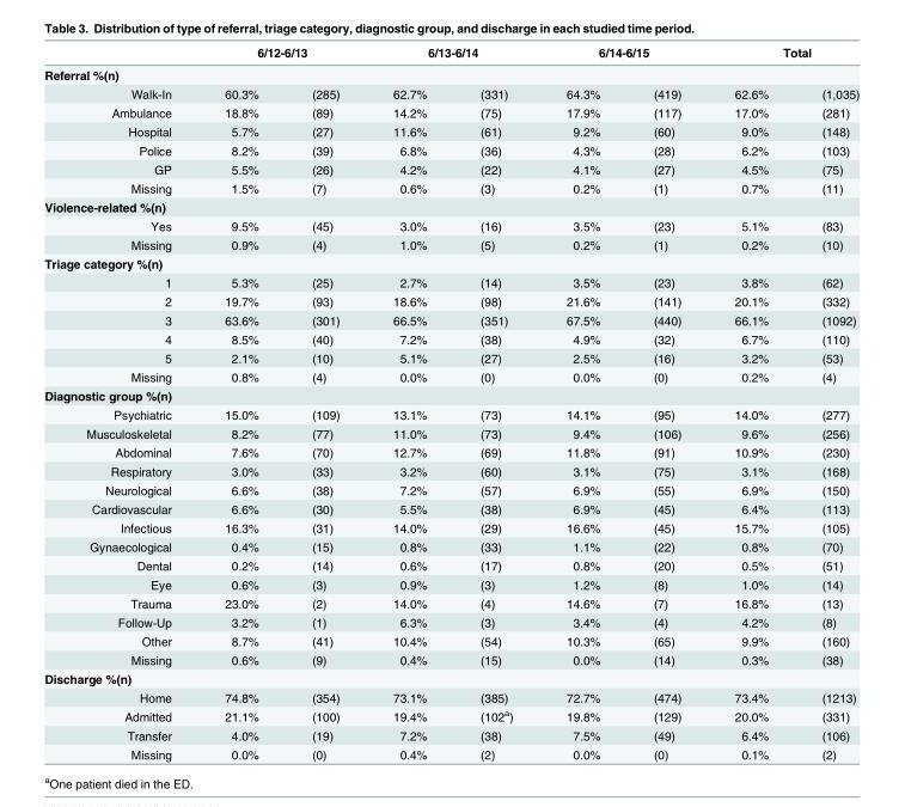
<table><thead><tr><td rowspan="2">Referral %(n)</td><td colspan="2">6/12-6/13</td><td colspan="2">6/13-6/14</td><td colspan="2">6/14-6/15</td><td colspan="2">Total</td></tr><tr><td></td><td></td><td></td><td></td><td></td><td></td><td></td><td></td></tr></thead><tbody><tr><td>Walk-In</td><td>60.3%</td><td>(285)</td><td>62.7%</td><td>(331)</td><td>64.3%</td><td>(419)</td><td>62.6%</td><td>(1,035)</td></tr><tr><td>Ambulance</td><td>18.8%</td><td>(89)</td><td>14.2%</td><td>(75)</td><td>17.9%</td><td>(117)</td><td>17.0%</td><td>(281)</td></tr><tr><td>Hospital</td><td>5.7%</td><td>(27)</td><td>11.6%</td><td>(61)</td><td>9.2%</td><td>(60)</td><td>9.0%</td><td>(148)</td></tr><tr><td>Police</td><td>8.2%</td><td>(39)</td><td>6.8%</td><td>(36)</td><td>4.3%</td><td>(28)</td><td>6.2%</td><td>(103)</td></tr><tr><td>GP</td><td>5.5%</td><td>(26)</td><td>4.2%</td><td>(22)</td><td>4.1%</td><td>(27)</td><td>4.5%</td><td>(75)</td></tr><tr><td>Missing</td><td>1.5%</td><td>(7)</td><td>0.6%</td><td>(3)</td><td>0.2%</td><td>(1)</td><td>0.7%</td><td>(11)</td></tr><tr><td colspan="9">Violence-related %(n)</td></tr><tr><td>Yes</td><td>9.5%</td><td>(45)</td><td>3.0%</td><td>(16)</td><td>3.5%</td><td>(23)</td><td>5.1%</td><td>(83)</td></tr><tr><td>Missing</td><td>0.9%</td><td>(4)</td><td>1.0%</td><td>(5)</td><td>0.2%</td><td>(1)</td><td>0.2%</td><td>(10)</td></tr><tr><td colspan="9">Triage category %(n)</td></tr><tr><td>1</td><td>5.3%</td><td>(25)</td><td>2.7%</td><td>(14)</td><td>3.5%</td><td>(23)</td><td>3.8%</td><td>(62)</td></tr><tr><td>2</td><td>19.7%</td><td>(93)</td><td>18.6%</td><td>(98)</td><td>21.6%</td><td>(141)</td><td>20.1%</td><td>(332)</td></tr><tr><td>3</td><td>63.6%</td><td>(301)</td><td>66.5%</td><td>(351)</td><td>67.5%</td><td>(440)</td><td>66.1%</td><td>(1092)</td></tr><tr><td>4</td><td>8.5%</td><td>(40)</td><td>7.2%</td><td>(38)</td><td>4.9%</td><td>(32)</td><td>6.7%</td><td>(110)</td></tr><tr><td>5</td><td>2.1%</td><td>(10)</td><td>5.1%</td><td>(27)</td><td>2.5%</td><td>(16)</td><td>3.2%</td><td>(53)</td></tr><tr><td>Missing</td><td>0.8%</td><td>(4)</td><td>0.0%</td><td>(0)</td><td>0.0%</td><td>(0)</td><td>0.2%</td><td>(4)</td></tr><tr><td colspan="9">Diagnostic group %(n)</td></tr><tr><td>Psychiatric</td><td>15.0%</td><td>(109)</td><td>13.1%</td><td>(73)</td><td>14.1%</td><td>(95)</td><td>14.0%</td><td>(277)</td></tr><tr><td>Musculoskeletal</td><td>8.2%</td><td>(77)</td><td>11.0%</td><td>(73)</td><td>9.4%</td><td>(106)</td><td>9.6%</td><td>(256)</td></tr><tr><td>Abdominal</td><td>7.6%</td><td>(70)</td><td>12.7%</td><td>(69)</td><td>11.8%</td><td>(91)</td><td>10.9%</td><td>(230)</td></tr><tr><td>Respiratory</td><td>3.0%</td><td>(33)</td><td>3.2%</td><td>(60)</td><td>3.1%</td><td>(75)</td><td>3.1%</td><td>(168)</td></tr><tr><td>Neurological</td><td>6.6%</td><td>(38)</td><td>7.2%</td><td>(57)</td><td>6.9%</td><td>(55)</td><td>6.9%</td><td>(150)</td></tr><tr><td>Cardiovascular</td><td>6.6%</td><td>(30)</td><td>5.5%</td><td>(38)</td><td>6.9%</td><td>(45)</td><td>6.4%</td><td>(113)</td></tr><tr><td>Infectious</td><td>16.3%</td><td>(31)</td><td>14.0%</td><td>(29)</td><td>16.6%</td><td>(45)</td><td>15.7%</td><td>(105)</td></tr><tr><td>Gynaecological</td><td>0.4%</td><td>(15)</td><td>0.8%</td><td>(33)</td><td>1.1%</td><td>(22)</td><td>0.8%</td><td>(70)</td></tr><tr><td>Dental</td><td>0.2%</td><td>(14)</td><td>0.6%</td><td>(17)</td><td>0.8%</td><td>(20)</td><td>0.5%</td><td>(51)</td></tr><tr><td>Eye</td><td>0.6%</td><td>(3)</td><td>0.9%</td><td>(3)</td><td>1.2%</td><td>(8)</td><td>1.0%</td><td>(14)</td></tr><tr><td>Trauma</td><td>23.0%</td><td>(2)</td><td>14.0%</td><td>(4)</td><td>14.6%</td><td>(7)</td><td>16.8%</td><td>(13)</td></tr><tr><td>Follow-Up</td><td>3.2%</td><td>(1)</td><td>6.3%</td><td>(3)</td><td>3.4%</td><td>(4)</td><td>4.2%</td><td>(8)</td></tr><tr><td>Other</td><td>8.7%</td><td>(41)</td><td>10.4%</td><td>(54)</td><td>10.3%</td><td>(65)</td><td>9.9%</td><td>(160)</td></tr><tr><td>Missing</td><td>0.6%</td><td>(9)</td><td>0.4%</td><td>(15)</td><td>0.0%</td><td>(14)</td><td>0.3%</td><td>(38)</td></tr><tr><td colspan="9">Discharge %(n)</td></tr><tr><td>Home</td><td>74.8%</td><td>(354)</td><td>73.1%</td><td>(385)</td><td>72.7%</td><td>(474)</td><td>73.4%</td><td>(1213)</td></tr><tr><td>Admitted</td><td>21.1%</td><td>(100)</td><td>19.4%</td><td>(102<sup>a</sup>)</td><td>19.8%</td><td>(129)</td><td>20.0%</td><td>(331)</td></tr><tr><td>Transfer</td><td>4.0%</td><td>(19)</td><td>7.2%</td><td>(38)</td><td>7.5%</td><td>(49)</td><td>6.4%</td><td>(106)</td></tr><tr><td>Missing</td><td>0.0%</td><td>(0)</td><td>0.4%</td><td>(2)</td><td>0.0%</td><td>(0)</td><td>0.1%</td><td>(2)</td></tr></tbody></table>